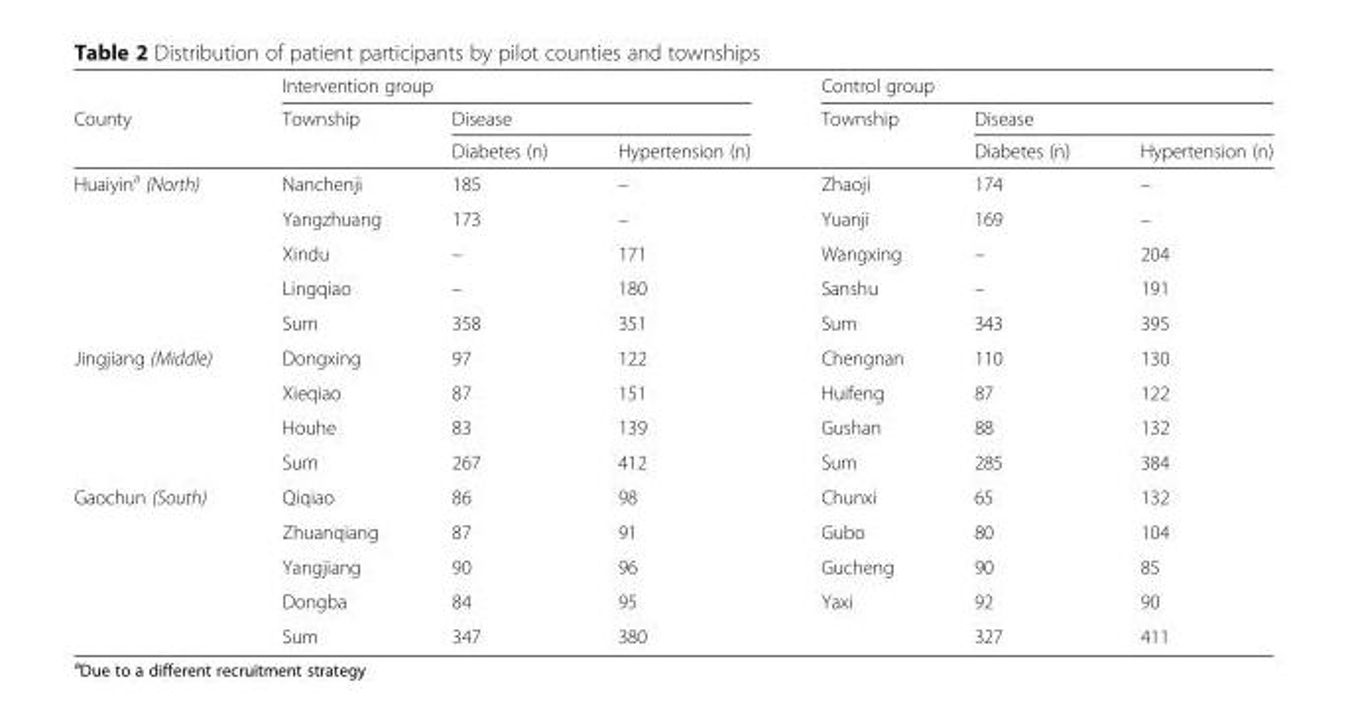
<table><thead><tr><td rowspan="3">County</td><td colspan="3">Intervention group</td><td colspan="3">Control group</td></tr><tr><td rowspan="2">Township</td><td colspan="2">Disease</td><td rowspan="2">Township</td><td colspan="2">Disease</td></tr><tr><td>Diabetes (n)</td><td>Hypertension (n)</td><td>Diabetes (n)</td><td>Hypertension (n)</td></tr></thead><tbody><tr><td rowspan="5">Huaiyin<sup>a</sup> (North)</td><td>Nanchenji</td><td>185</td><td>–</td><td>Zhaoji</td><td>174</td><td>–</td></tr><tr><td>Yangzhuang</td><td>173</td><td>–</td><td>Yuanji</td><td>169</td><td>–</td></tr><tr><td>Xindu</td><td>–</td><td>171</td><td>Wangxing</td><td>–</td><td>204</td></tr><tr><td>Lingqiao</td><td>–</td><td>180</td><td>Sanshu</td><td>–</td><td>191</td></tr><tr><td>Sum</td><td>358</td><td>351</td><td>Sum</td><td>343</td><td>395</td></tr><tr><td rowspan="4">Jingjiang (Middle)</td><td>Dongxing</td><td>97</td><td>122</td><td>Chengnan</td><td>110</td><td>130</td></tr><tr><td>Xieqiao</td><td>87</td><td>151</td><td>Huifeng</td><td>87</td><td>122</td></tr><tr><td>Houhe</td><td>83</td><td>139</td><td>Gushan</td><td>88</td><td>132</td></tr><tr><td>Sum</td><td>267</td><td>412</td><td>Sum</td><td>285</td><td>384</td></tr><tr><td rowspan="5">Gaochun (South)</td><td>Qiqiao</td><td>86</td><td>98</td><td>Chunxi</td><td>65</td><td>132</td></tr><tr><td>Zhuanqiang</td><td>87</td><td>91</td><td>Gubo</td><td>80</td><td>104</td></tr><tr><td>Yangjiang</td><td>90</td><td>96</td><td>Gucheng</td><td>90</td><td>85</td></tr><tr><td>Dongba</td><td>84</td><td>95</td><td>Yaxi</td><td>92</td><td>90</td></tr><tr><td>Sum</td><td>347</td><td>380</td><td></td><td>327</td><td>411</td></tr></tbody></table>